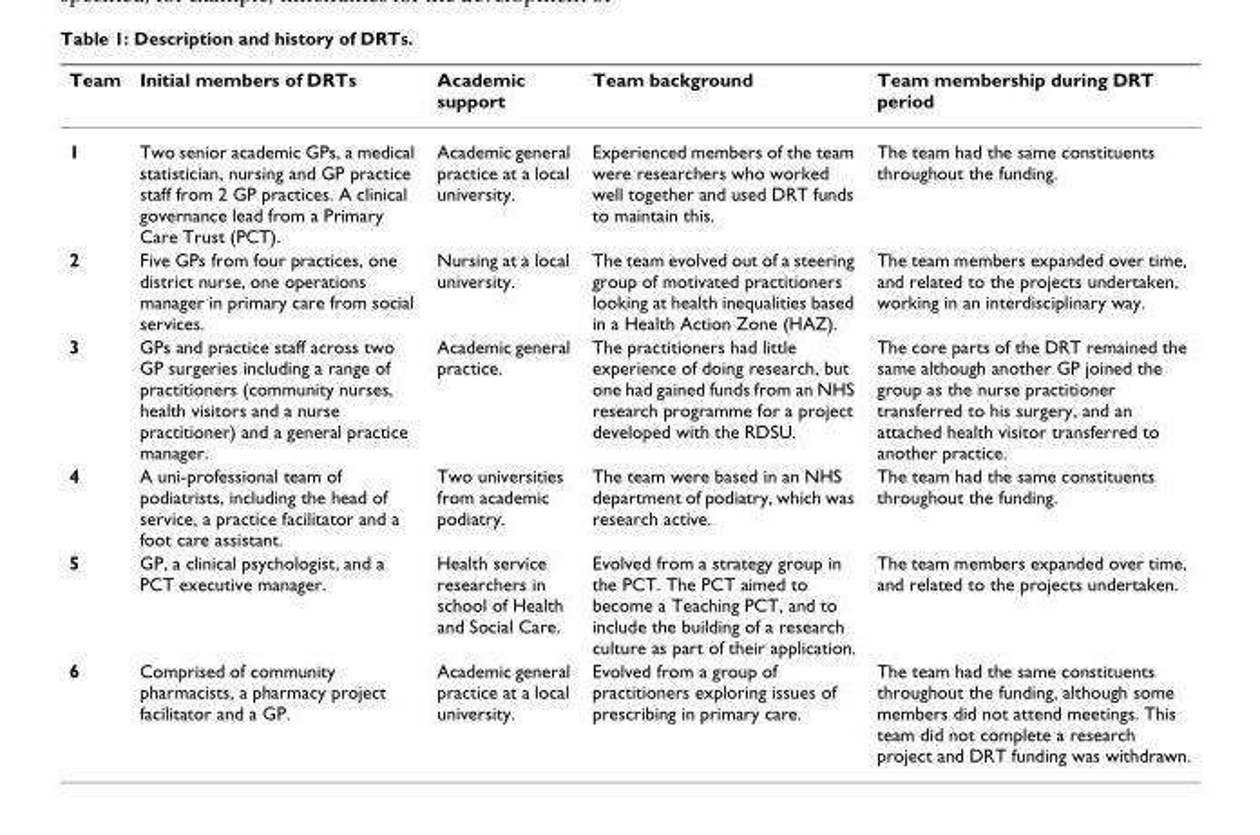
<table><thead><tr><td>Team</td><td>Initial members of DRTs</td><td>Academic support</td><td>Team background</td><td>Team membership during DRT period</td></tr></thead><tbody><tr><td>1</td><td>Two senior academic GPs, a medical statistician, nursing and GP practice staff from 2 GP practices. A clinical governance lead from a Primary Care Trust (PCT).</td><td>Academic general practice at a local university.</td><td>Experienced members of the team were researchers who worked well together and used DRT funds to maintain this.</td><td>The team had the same constituents throughout the funding.</td></tr><tr><td>2</td><td>Five GPs from four practices, one district nurse, one operations manager in primary care from social services.</td><td>Nursing at a local university.</td><td>The team evolved out of a steering group of motivated practitioners looking at health inequalities based in a Health Action Zone (HAZ).</td><td>The team members expanded over time, and related to the projects undertaken, working in an interdisciplinary way.</td></tr><tr><td>3</td><td>GPs and practice staff across two GP surgeries including a range of practitioners (community nurses, health visitors and a nurse practitioner) and a general practice manager.</td><td>Academic general practice.</td><td>The practitioners had little experience of doing research, but one had gained funds from an NHS research programme for a project developed with the RDSU.</td><td>The core parts of the DRT remained the same although another GP joined the group as the nurse practitioner transferred to his surgery, and an attached health visitor transferred to another practice.</td></tr><tr><td>4</td><td>A uni-professional team of podiatrists, including the head of service, a practice facilitator and a foot care assistant.</td><td>Two universities from academic podiatry.</td><td>The team were based in an NHS department of podiatry, which was research active.</td><td>The team had the same constituents throughout the funding.</td></tr><tr><td>5</td><td>GP, a clinical psychologist, and a PCT executive manager.</td><td>Health service researchers in school of Health and Social Care.</td><td>Evolved from a strategy group in the PCT. The PCT aimed to become a Teaching PCT, and to include the building of a research culture as part of their application.</td><td>The team members expanded over time, and related to the projects undertaken.</td></tr><tr><td>6</td><td>Comprised of community pharmacists, a pharmacy project facilitator and a GP.</td><td>Academic general practice at a local university.</td><td>Evolved from a group of practitioners exploring issues of prescribing in primary care.</td><td>The team had the same constituents throughout the funding, although some members did not attend meetings. This team did not complete a research project and DRT funding was withdrawn.</td></tr></tbody></table>